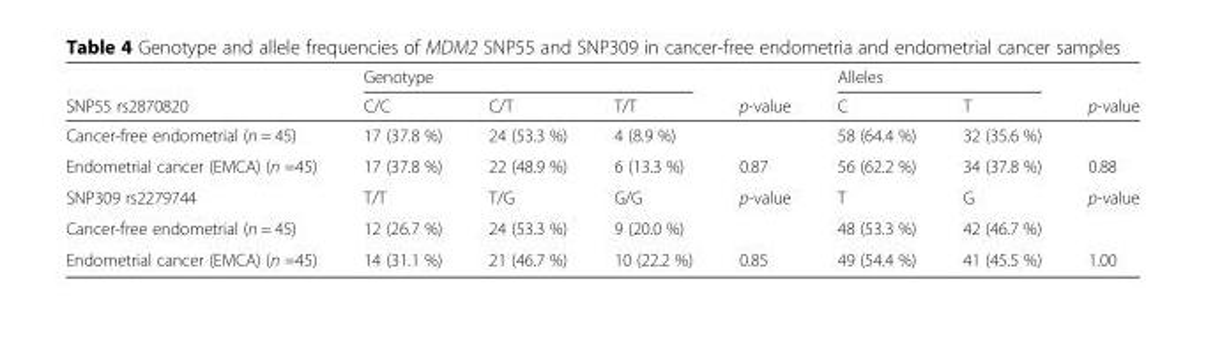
<table><thead><tr><td rowspan="2">SNP55 rs2870820</td><td colspan="3">Genotype</td><td rowspan="2">p-value</td><td colspan="2">Alleles</td><td rowspan="2">p-value</td></tr><tr><td>C/C</td><td>C/T</td><td>T/T</td><td>C</td><td>T</td></tr></thead><tbody><tr><td>Cancer-free endometrial (n = 45)</td><td>17 (37.8 %)</td><td>24 (53.3 %)</td><td>4 (8.9 %)</td><td></td><td>58 (64.4 %)</td><td>32 (35.6 %)</td><td></td></tr><tr><td>Endometrial cancer (EMCA) (n =45)</td><td>17 (37.8 %)</td><td>22 (48.9 %)</td><td>6 (13.3 %)</td><td>0.87</td><td>56 (62.2 %)</td><td>34 (37.8 %)</td><td>0.88</td></tr><tr><td>SNP309 rs2279744</td><td>T/T</td><td>T/G</td><td>G/G</td><td>p-value</td><td>T</td><td>G</td><td>p-value</td></tr><tr><td>Cancer-free endometrial (n = 45)</td><td>12 (26.7 %)</td><td>24 (53.3 %)</td><td>9 (20.0 %)</td><td></td><td>48 (53.3 %)</td><td>42 (46.7 %)</td><td></td></tr><tr><td>Endometrial cancer (EMCA) (n =45)</td><td>14 (31.1 %)</td><td>21 (46.7 %)</td><td>10 (22.2 %)</td><td>0.85</td><td>49 (54.4 %)</td><td>41 (45.5 %)</td><td>1.00</td></tr></tbody></table>